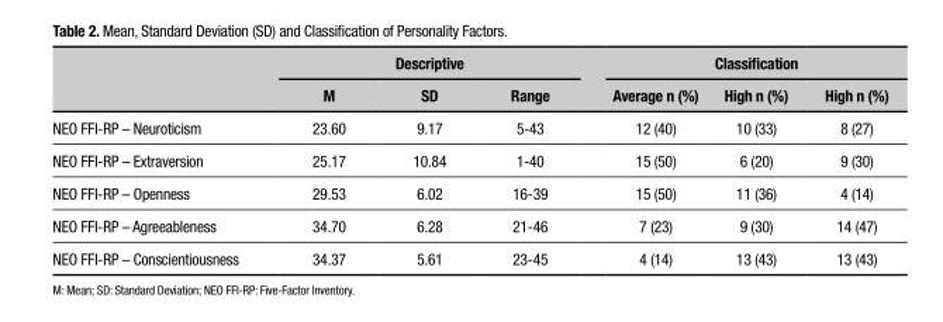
<table><thead><tr><td rowspan="2"></td><td colspan="3">Descriptive</td><td colspan="3">Classification</td></tr><tr><td>M</td><td>SD</td><td>Range</td><td>Average n (%)</td><td>High n (%)</td><td>High n (%)</td></tr></thead><tbody><tr><td>NEO FFI-RP – Neuroticism</td><td>23.60</td><td>9.17</td><td>5-43</td><td>12 (40)</td><td>10 (33)</td><td>8 (27)</td></tr><tr><td>NEO FFI-RP – Extraversion</td><td>25.17</td><td>10.84</td><td>1-40</td><td>15 (50)</td><td>6 (20)</td><td>9 (30)</td></tr><tr><td>NEO FFI-RP – Openness</td><td>29.53</td><td>6.02</td><td>16-39</td><td>15 (50)</td><td>11 (36)</td><td>4 (14)</td></tr><tr><td>NEO FFI-RP – Agreeableness</td><td>34.70</td><td>6.28</td><td>21-46</td><td>7 (23)</td><td>9 (30)</td><td>14 (47)</td></tr><tr><td>NEO FFI-RP – Conscientiousness</td><td>34.37</td><td>5.61</td><td>23-45</td><td>4 (14)</td><td>13 (43)</td><td>13 (43)</td></tr></tbody></table>